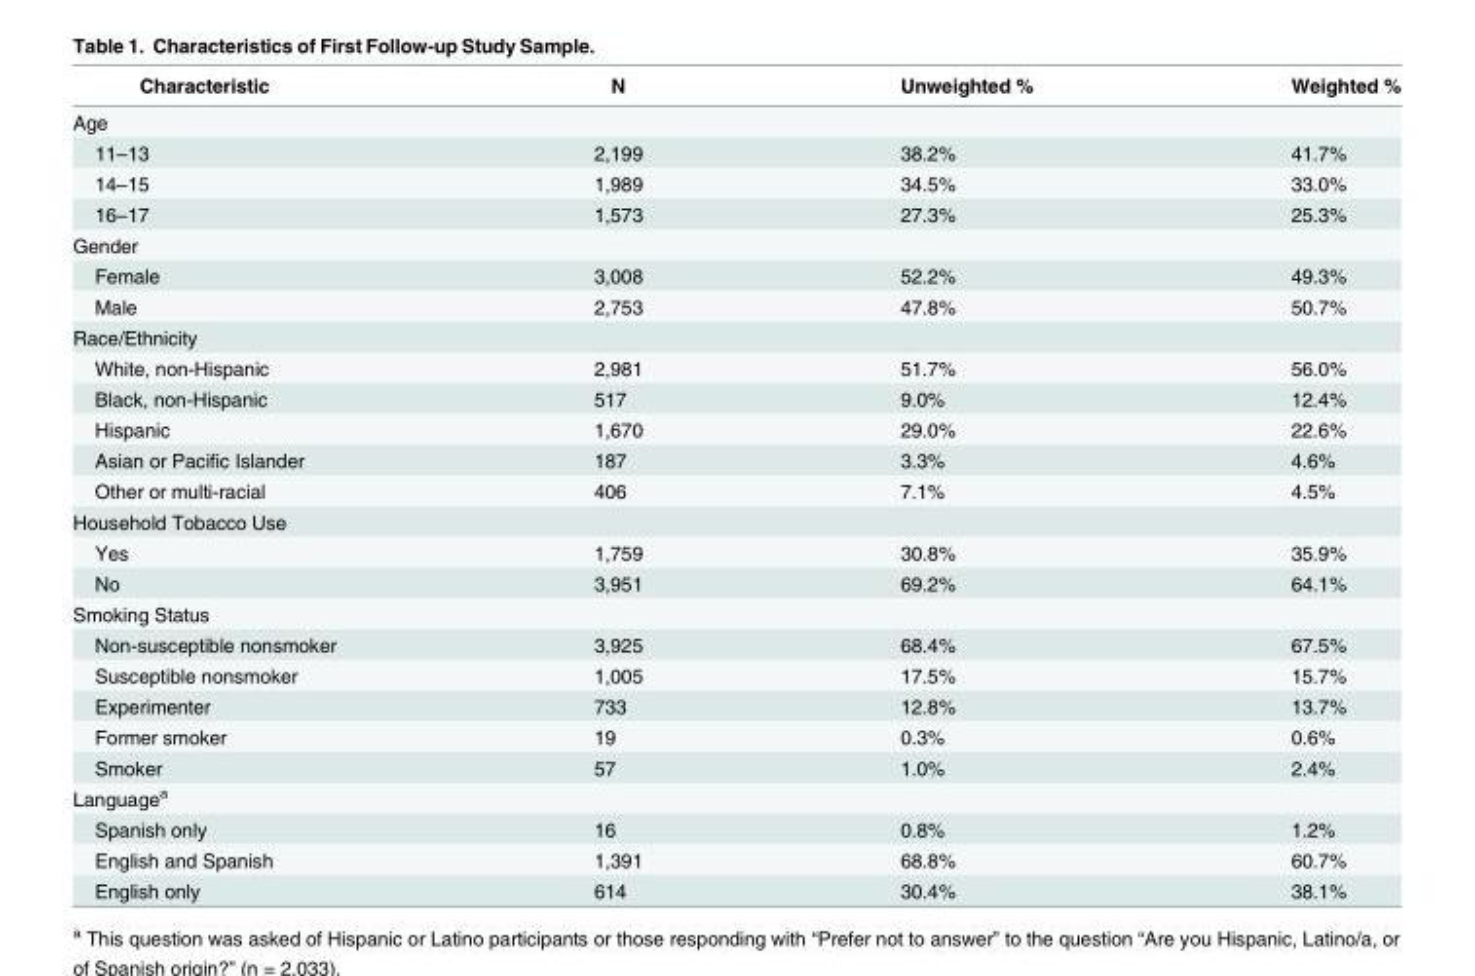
<table><thead><tr><td>Characteristic</td><td>N</td><td>Unweighted %</td><td>Weighted %</td></tr></thead><tbody><tr><td colspan="4">Age</td></tr><tr><td>11–13</td><td>2,199</td><td>38.2%</td><td>41.7%</td></tr><tr><td>14–15</td><td>1,989</td><td>34.5%</td><td>33.0%</td></tr><tr><td>16–17</td><td>1,573</td><td>27.3%</td><td>25.3%</td></tr><tr><td colspan="4">Gender</td></tr><tr><td>Female</td><td>3,008</td><td>52.2%</td><td>49.3%</td></tr><tr><td>Male</td><td>2,753</td><td>47.8%</td><td>50.7%</td></tr><tr><td colspan="4">Race/Ethnicity</td></tr><tr><td>White, non-Hispanic</td><td>2,981</td><td>51.7%</td><td>56.0%</td></tr><tr><td>Black, non-Hispanic</td><td>517</td><td>9.0%</td><td>12.4%</td></tr><tr><td>Hispanic</td><td>1,670</td><td>29.0%</td><td>22.6%</td></tr><tr><td>Asian or Pacific Islander</td><td>187</td><td>3.3%</td><td>4.6%</td></tr><tr><td>Other or multi-racial</td><td>406</td><td>7.1%</td><td>4.5%</td></tr><tr><td colspan="4">Household Tobacco Use</td></tr><tr><td>Yes</td><td>1,759</td><td>30.8%</td><td>35.9%</td></tr><tr><td>No</td><td>3,951</td><td>69.2%</td><td>64.1%</td></tr><tr><td colspan="4">Smoking Status</td></tr><tr><td>Non-susceptible nonsmoker</td><td>3,925</td><td>68.4%</td><td>67.5%</td></tr><tr><td>Susceptible nonsmoker</td><td>1,005</td><td>17.5%</td><td>15.7%</td></tr><tr><td>Experimenter</td><td>733</td><td>12.8%</td><td>13.7%</td></tr><tr><td>Former smoker</td><td>19</td><td>0.3%</td><td>0.6%</td></tr><tr><td>Smoker</td><td>57</td><td>1.0%</td><td>2.4%</td></tr><tr><td colspan="4">Language<sup>a</sup></td></tr><tr><td>Spanish only</td><td>16</td><td>0.8%</td><td>1.2%</td></tr><tr><td>English and Spanish</td><td>1,391</td><td>68.8%</td><td>60.7%</td></tr><tr><td>English only</td><td>614</td><td>30.4%</td><td>38.1%</td></tr></tbody></table>